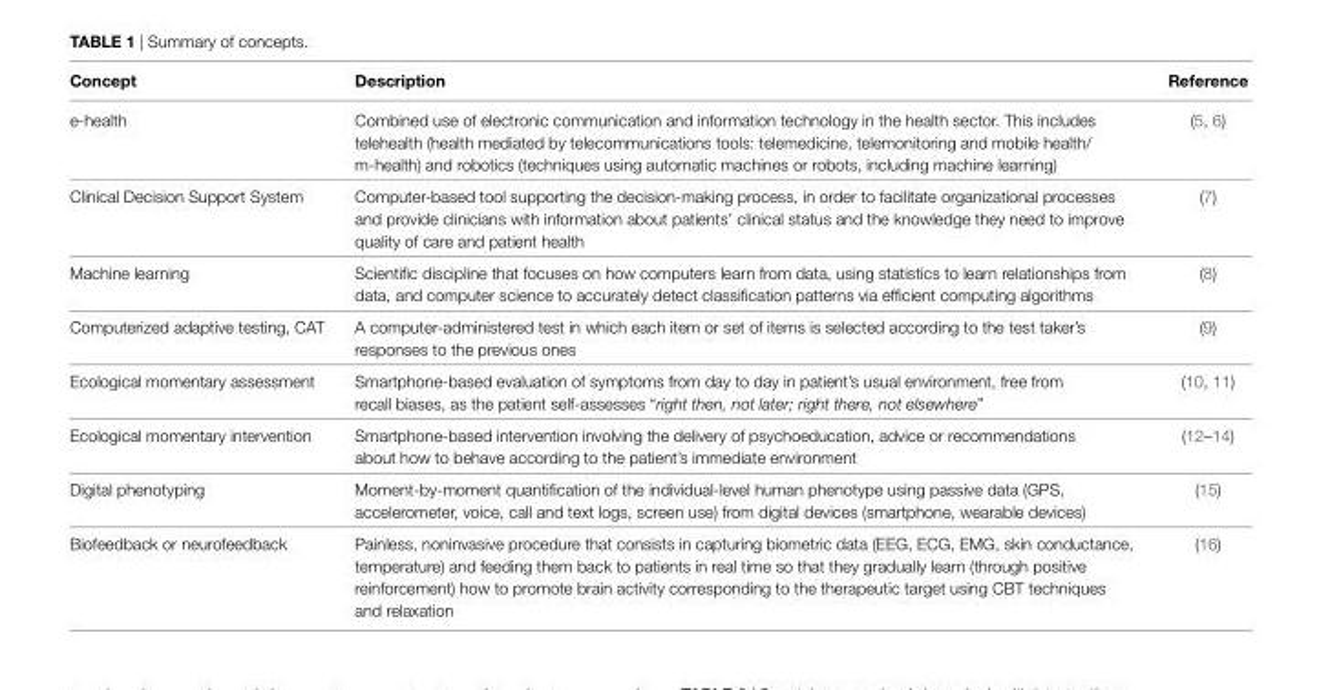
<table><thead><tr><td>Concept</td><td>Description</td><td>Reference</td></tr></thead><tbody><tr><td>ehealth</td><td>Combined use of electronic communication and information technology in the health sector. This includes telehealth (health mediated by telecommunications tools: telemedicine, telemonitoring and mobile health/ mhealth) and robotics (techniques using automatic machines or robots, including machine learning)</td><td>(5, 6)</td></tr><tr><td>Clinical Decision Support System</td><td>Computerbased tool supporting the decisionmaking process, in order to facilitate organizational processes and provide clinicians with information about patients’ clinical status and the knowledge they need to improve quality of care and patient health</td><td>(7)</td></tr><tr><td>Machine learning</td><td>Scientific discipline that focuses on how computers learn from data, using statistics to learn relationships from data, and computer science to accurately detect classification patterns via efficient computing algorithms</td><td>(8)</td></tr><tr><td>Computerized adaptive testing, CAT</td><td>A computeradministered test in which each item or set of items is selected according to the test taker’s responses to the previous ones</td><td>(9)</td></tr><tr><td>Ecological momentary assessment</td><td>Smartphonebased evaluation of symptoms from day to day in patient’s usual environment, free from recall biases, as the patient selfassesses “right then, not later; right there, not elsewhere”</td><td>(10, 11)</td></tr><tr><td>Ecological momentary intervention</td><td>Smartphonebased intervention involving the delivery of psychoeducation, advice or recommendations about how to behave according to the patient’s immediate environment</td><td>(12–14)</td></tr><tr><td>Digital phenotyping</td><td>Momentbymoment quantification of the individuallevel human phenotype using passive data (GPS, accelerometer, voice, call and text logs, screen use) from digital devices (smartphone, wearable devices)</td><td>(15)</td></tr><tr><td>Biofeedback or neurofeedback</td><td>Painless, noninvasive procedure that consists in capturing biometric data (EEG, ECG, EMG, skin conductance, temperature) and feeding them back to patients in real time so that they gradually learn (through positive reinforcement) how to promote brain activity corresponding to the therapeutic target using CBT techniques and relaxation</td><td>(16)</td></tr></tbody></table>